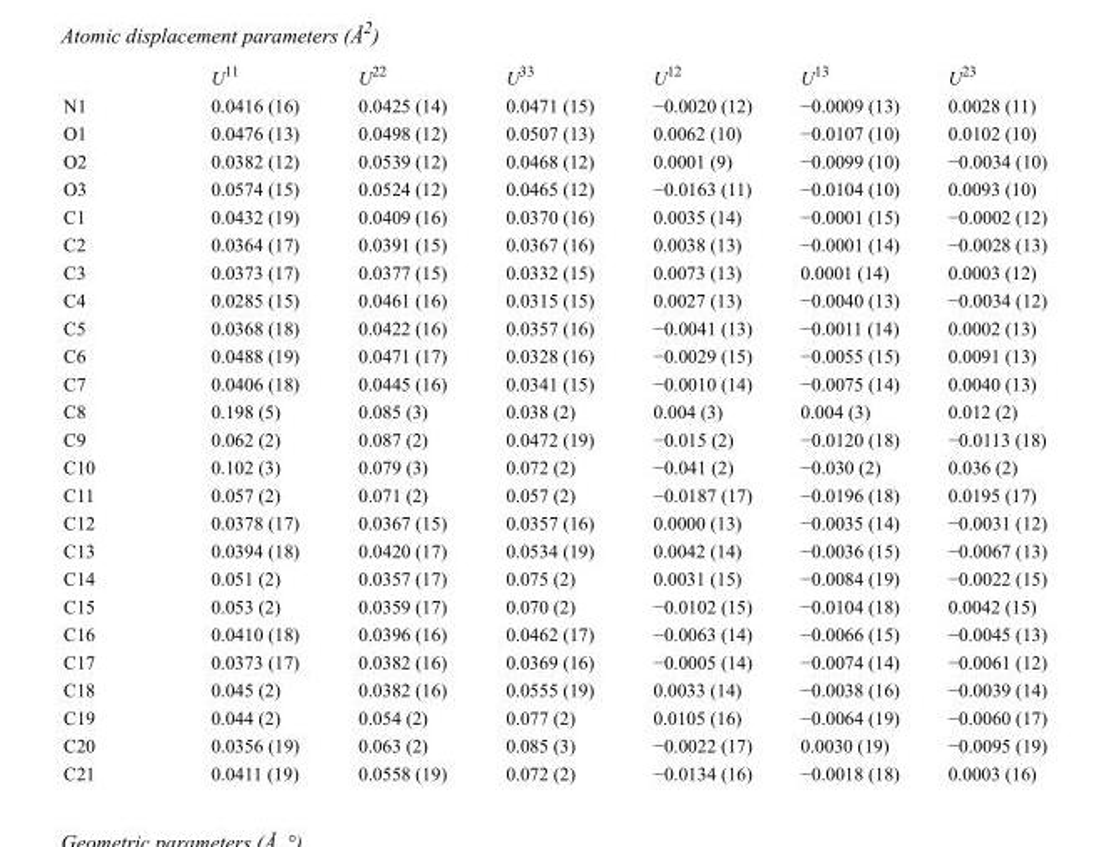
<table><thead><tr><td></td><td>U<sup>11</sup></td><td>U<sup>22</sup></td><td>U<sup>33</sup></td><td>U<sup>12</sup></td><td>U<sup>13</sup></td><td>U<sup>23</sup></td></tr></thead><tbody><tr><td>N1</td><td>0.0416 (16)</td><td>0.0425 (14)</td><td>0.0471 (15)</td><td>−0.0020 (12)</td><td>−0.0009 (13)</td><td>0.0028 (11)</td></tr><tr><td>O1</td><td>0.0476 (13)</td><td>0.0498 (12)</td><td>0.0507 (13)</td><td>0.0062 (10)</td><td>−0.0107 (10)</td><td>0.0102 (10)</td></tr><tr><td>O2</td><td>0.0382 (12)</td><td>0.0539 (12)</td><td>0.0468 (12)</td><td>0.0001 (9)</td><td>−0.0099 (10)</td><td>−0.0034 (10)</td></tr><tr><td>O3</td><td>0.0574 (15)</td><td>0.0524 (12)</td><td>0.0465 (12)</td><td>−0.0163 (11)</td><td>−0.0104 (10)</td><td>0.0093 (10)</td></tr><tr><td>C1</td><td>0.0432 (19)</td><td>0.0409 (16)</td><td>0.0370 (16)</td><td>0.0035 (14)</td><td>−0.0001 (15)</td><td>−0.0002 (12)</td></tr><tr><td>C2</td><td>0.0364 (17)</td><td>0.0391 (15)</td><td>0.0367 (16)</td><td>0.0038 (13)</td><td>−0.0001 (14)</td><td>−0.0028 (13)</td></tr><tr><td>C3</td><td>0.0373 (17)</td><td>0.0377 (15)</td><td>0.0332 (15)</td><td>0.0073 (13)</td><td>0.0001 (14)</td><td>0.0003 (12)</td></tr><tr><td>C4</td><td>0.0285 (15)</td><td>0.0461 (16)</td><td>0.0315 (15)</td><td>0.0027 (13)</td><td>−0.0040 (13)</td><td>−0.0034 (12)</td></tr><tr><td>C5</td><td>0.0368 (18)</td><td>0.0422 (16)</td><td>0.0357 (16)</td><td>−0.0041 (13)</td><td>−0.0011 (14)</td><td>0.0002 (13)</td></tr><tr><td>C6</td><td>0.0488 (19)</td><td>0.0471 (17)</td><td>0.0328 (16)</td><td>−0.0029 (15)</td><td>−0.0055 (15)</td><td>0.0091 (13)</td></tr><tr><td>C7</td><td>0.0406 (18)</td><td>0.0445 (16)</td><td>0.0341 (15)</td><td>−0.0010 (14)</td><td>−0.0075 (14)</td><td>0.0040 (13)</td></tr><tr><td>C8</td><td>0.198 (5)</td><td>0.085 (3)</td><td>0.038 (2)</td><td>0.004 (3)</td><td>0.004 (3)</td><td>0.012 (2)</td></tr><tr><td>C9</td><td>0.062 (2)</td><td>0.087 (2)</td><td>0.0472 (19)</td><td>−0.015 (2)</td><td>−0.0120 (18)</td><td>−0.0113 (18)</td></tr><tr><td>C10</td><td>0.102 (3)</td><td>0.079 (3)</td><td>0.072 (2)</td><td>−0.041 (2)</td><td>−0.030 (2)</td><td>0.036 (2)</td></tr><tr><td>C11</td><td>0.057 (2)</td><td>0.071 (2)</td><td>0.057 (2)</td><td>−0.0187 (17)</td><td>−0.0196 (18)</td><td>0.0195 (17)</td></tr><tr><td>C12</td><td>0.0378 (17)</td><td>0.0367 (15)</td><td>0.0357 (16)</td><td>0.0000 (13)</td><td>−0.0035 (14)</td><td>−0.0031 (12)</td></tr><tr><td>C13</td><td>0.0394 (18)</td><td>0.0420 (17)</td><td>0.0534 (19)</td><td>0.0042 (14)</td><td>−0.0036 (15)</td><td>−0.0067 (13)</td></tr><tr><td>C14</td><td>0.051 (2)</td><td>0.0357 (17)</td><td>0.075 (2)</td><td>0.0031 (15)</td><td>−0.0084 (19)</td><td>−0.0022 (15)</td></tr><tr><td>C15</td><td>0.053 (2)</td><td>0.0359 (17)</td><td>0.070 (2)</td><td>−0.0102 (15)</td><td>−0.0104 (18)</td><td>0.0042 (15)</td></tr><tr><td>C16</td><td>0.0410 (18)</td><td>0.0396 (16)</td><td>0.0462 (17)</td><td>−0.0063 (14)</td><td>−0.0066 (15)</td><td>−0.0045 (13)</td></tr><tr><td>C17</td><td>0.0373 (17)</td><td>0.0382 (16)</td><td>0.0369 (16)</td><td>−0.0005 (14)</td><td>−0.0074 (14)</td><td>−0.0061 (12)</td></tr><tr><td>C18</td><td>0.045 (2)</td><td>0.0382 (16)</td><td>0.0555 (19)</td><td>0.0033 (14)</td><td>−0.0038 (16)</td><td>−0.0039 (14)</td></tr><tr><td>C19</td><td>0.044 (2)</td><td>0.054 (2)</td><td>0.077 (2)</td><td>0.0105 (16)</td><td>−0.0064 (19)</td><td>−0.0060 (17)</td></tr><tr><td>C20</td><td>0.0356 (19)</td><td>0.063 (2)</td><td>0.085 (3)</td><td>−0.0022 (17)</td><td>0.0030 (19)</td><td>−0.0095 (19)</td></tr><tr><td>C21</td><td>0.0411 (19)</td><td>0.0558 (19)</td><td>0.072 (2)</td><td>−0.0134 (16)</td><td>−0.0018 (18)</td><td>0.0003 (16)</td></tr></tbody></table>